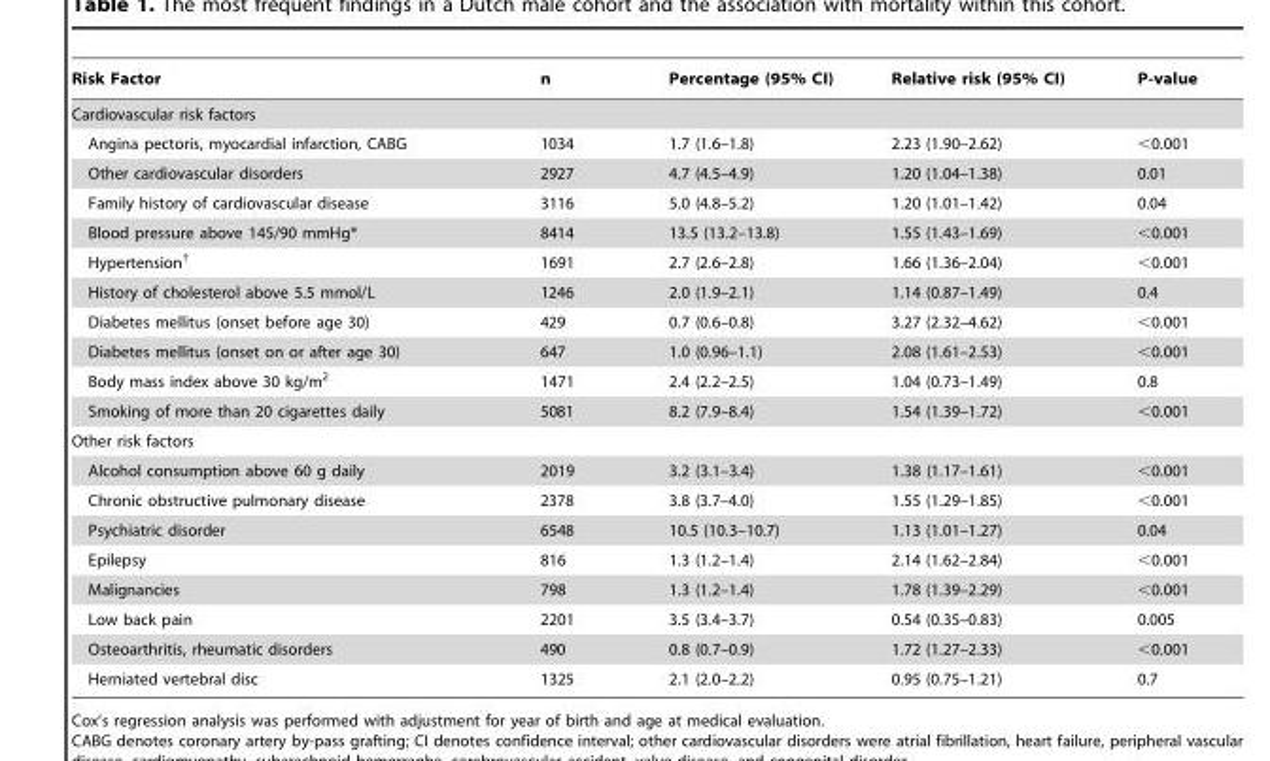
<table><thead><tr><td>Risk Factor</td><td>n</td><td>Percentage (95% CI)</td><td>Relative risk (95% CI)</td><td>P-value</td></tr></thead><tbody><tr><td colspan="5">Cardiovascular risk factors</td></tr><tr><td>Angina pectoris, myocardial infarction, CABG</td><td>1034</td><td>1.7 (1.6–1.8)</td><td>2.23 (1.90–2.62)</td><td>&lt;0.001</td></tr><tr><td>Other cardiovascular disorders</td><td>2927</td><td>4.7 (4.5–4.9)</td><td>1.20 (1.04–1.38)</td><td>0.01</td></tr><tr><td>Family history of cardiovascular disease</td><td>3116</td><td>5.0 (4.8–5.2)</td><td>1.20 (1.01–1.42)</td><td>0.04</td></tr><tr><td>Blood pressure above 145/90 mmHg*</td><td>8414</td><td>13.5 (13.2–13.8)</td><td>1.55 (1.43–1.69)</td><td>&lt;0.001</td></tr><tr><td>Hypertension†</td><td>1691</td><td>2.7 (2.6–2.8)</td><td>1.66 (1.36–2.04)</td><td>&lt;0.001</td></tr><tr><td>History of cholesterol above 5.5 mmol/L</td><td>1246</td><td>2.0 (1.9–2.1)</td><td>1.14 (0.87–1.49)</td><td>0.4</td></tr><tr><td>Diabetes mellitus (onset before age 30)</td><td>429</td><td>0.7 (0.6–0.8)</td><td>3.27 (2.32–4.62)</td><td>&lt;0.001</td></tr><tr><td>Diabetes mellitus (onset on or after age 30)</td><td>647</td><td>1.0 (0.96–1.1)</td><td>2.08 (1.61–2.53)</td><td>&lt;0.001</td></tr><tr><td>Body mass index above 30 kg/m<sup>2</sup></td><td>1471</td><td>2.4 (2.2–2.5)</td><td>1.04 (0.73–1.49)</td><td>0.8</td></tr><tr><td>Smoking of more than 20 cigarettes daily</td><td>5081</td><td>8.2 (7.9–8.4)</td><td>1.54 (1.39–1.72)</td><td>&lt;0.001</td></tr><tr><td colspan="5">Other risk factors</td></tr><tr><td>Alcohol consumption above 60 g daily</td><td>2019</td><td>3.2 (3.1–3.4)</td><td>1.38 (1.17–1.61)</td><td>&lt;0.001</td></tr><tr><td>Chronic obstructive pulmonary disease</td><td>2378</td><td>3.8 (3.7–4.0)</td><td>1.55 (1.29–1.85)</td><td>&lt;0.001</td></tr><tr><td>Psychiatric disorder</td><td>6548</td><td>10.5 (10.3–10.7)</td><td>1.13 (1.01–1.27)</td><td>0.04</td></tr><tr><td>Epilepsy</td><td>816</td><td>1.3 (1.2–1.4)</td><td>2.14 (1.62–2.84)</td><td>&lt;0.001</td></tr><tr><td>Malignancies</td><td>798</td><td>1.3 (1.2–1.4)</td><td>1.78 (1.39–2.29)</td><td>&lt;0.001</td></tr><tr><td>Low back pain</td><td>2201</td><td>3.5 (3.4–3.7)</td><td>0.54 (0.35–0.83)</td><td>0.005</td></tr><tr><td>Osteoarthritis, rheumatic disorders</td><td>490</td><td>0.8 (0.7–0.9)</td><td>1.72 (1.27–2.33)</td><td>&lt;0.001</td></tr><tr><td>Herniated vertebral disc</td><td>1325</td><td>2.1 (2.0–2.2)</td><td>0.95 (0.75–1.21)</td><td>0.7</td></tr></tbody></table>